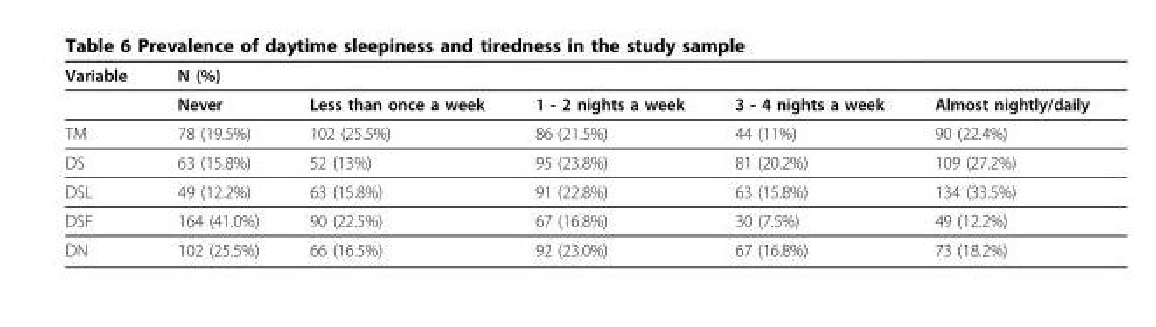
<table><thead><tr><td>Variable</td><td>N (%)</td><td></td><td></td><td></td><td></td></tr></thead><tbody><tr><td></td><td>Never</td><td>Less than once a week</td><td>1 - 2 nights a week</td><td>3 - 4 nights a week</td><td>Almost nightly/daily</td></tr><tr><td>TM</td><td>78 (19.5%)</td><td>102 (25.5%)</td><td>86 (21.5%)</td><td>44 (11%)</td><td>90 (22.4%)</td></tr><tr><td>DS</td><td>63 (15.8%)</td><td>52 (13%)</td><td>95 (23.8%)</td><td>81 (20.2%)</td><td>109 (27.2%)</td></tr><tr><td>DSL</td><td>49 (12.2%)</td><td>63 (15.8%)</td><td>91 (22.8%)</td><td>63 (15.8%)</td><td>134 (33.5%)</td></tr><tr><td>DSF</td><td>164 (41.0%)</td><td>90 (22.5%)</td><td>67 (16.8%)</td><td>30 (7.5%)</td><td>49 (12.2%)</td></tr><tr><td>DN</td><td>102 (25.5%)</td><td>66 (16.5%)</td><td>92 (23.0%)</td><td>67 (16.8%)</td><td>73 (18.2%)</td></tr></tbody></table>